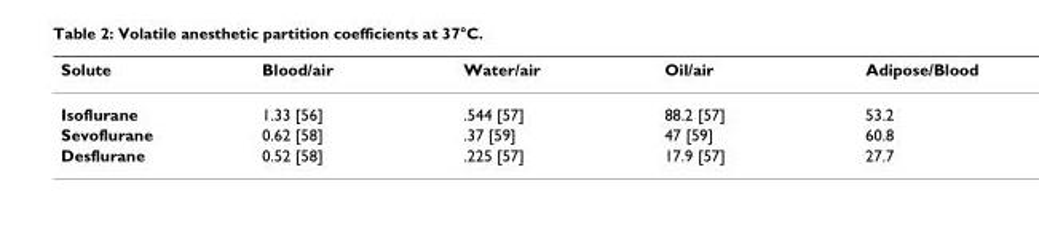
<table><thead><tr><td>Solute</td><td>Blood/air</td><td>Water/air</td><td>Oil/air</td><td>Adipose/Blood</td></tr></thead><tbody><tr><td>Isoflurane</td><td>1.33 [56]</td><td>.544 [57]</td><td>88.2 [57]</td><td>53.2</td></tr><tr><td>Sevoflurane</td><td>0.62 [58]</td><td>.37 [59]</td><td>47 [59]</td><td>60.8</td></tr><tr><td>Desflurane</td><td>0.52 [58]</td><td>.225 [57]</td><td>17.9 [57]</td><td>27.7</td></tr></tbody></table>